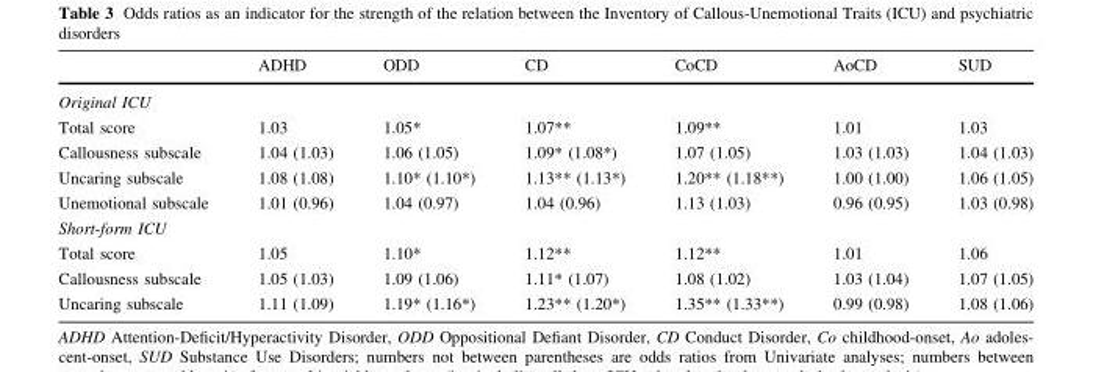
<table><thead><tr><td></td><td>ADHD</td><td>ODD</td><td>CD</td><td>CoCD</td><td>AoCD</td><td>SUD</td></tr></thead><tbody><tr><td colspan="7">Original ICU</td></tr><tr><td>Total score</td><td>1.03</td><td>1.05*</td><td>1.07**</td><td>1.09**</td><td>1.01</td><td>1.03</td></tr><tr><td>Callousness subscale</td><td>1.04 (1.03)</td><td>1.06 (1.05)</td><td>1.09* (1.08*)</td><td>1.07 (1.05)</td><td>1.03 (1.03)</td><td>1.04 (1.03)</td></tr><tr><td>Uncaring subscale</td><td>1.08 (1.08)</td><td>1.10* (1.10*)</td><td>1.13** (1.13*)</td><td>1.20** (1.18**)</td><td>1.00 (1.00)</td><td>1.06 (1.05)</td></tr><tr><td>Unemotional subscale</td><td>1.01 (0.96)</td><td>1.04 (0.97)</td><td>1.04 (0.96)</td><td>1.13 (1.03)</td><td>0.96 (0.95)</td><td>1.03 (0.98)</td></tr><tr><td colspan="7">Short-form ICU</td></tr><tr><td>Total score</td><td>1.05</td><td>1.10*</td><td>1.12**</td><td>1.12**</td><td>1.01</td><td>1.06</td></tr><tr><td>Callousness subscale</td><td>1.05 (1.03)</td><td>1.09 (1.06)</td><td>1.11* (1.07)</td><td>1.08 (1.02)</td><td>1.03 (1.04)</td><td>1.07 (1.05)</td></tr><tr><td>Uncaring subscale</td><td>1.11 (1.09)</td><td>1.19* (1.16*)</td><td>1.23** (1.20*)</td><td>1.35** (1.33**)</td><td>0.99 (0.98)</td><td>1.08 (1.06)</td></tr></tbody></table>